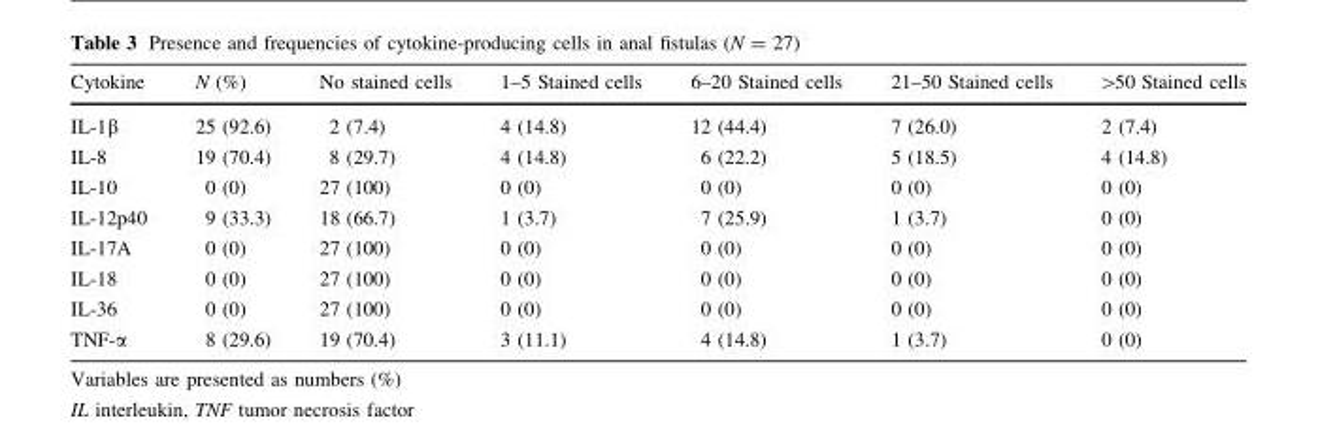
<table><thead><tr><td>Cytokine</td><td>N (%)</td><td>No stained cells</td><td>1–5 Stained cells</td><td>6–20 Stained cells</td><td>21–50 Stained cells</td><td>&gt;50 Stained cells</td></tr></thead><tbody><tr><td>IL-1β</td><td>25 (92.6)</td><td>2 (7.4)</td><td>4 (14.8)</td><td>12 (44.4)</td><td>7 (26.0)</td><td>2 (7.4)</td></tr><tr><td>IL-8</td><td>19 (70.4)</td><td>8 (29.7)</td><td>4 (14.8)</td><td>6 (22.2)</td><td>5 (18.5)</td><td>4 (14.8)</td></tr><tr><td>IL-10</td><td>0 (0)</td><td>27 (100)</td><td>0 (0)</td><td>0 (0)</td><td>0 (0)</td><td>0 (0)</td></tr><tr><td>IL-12p40</td><td>9 (33.3)</td><td>18 (66.7)</td><td>1 (3.7)</td><td>7 (25.9)</td><td>1 (3.7)</td><td>0 (0)</td></tr><tr><td>IL-17A</td><td>0 (0)</td><td>27 (100)</td><td>0 (0)</td><td>0 (0)</td><td>0 (0)</td><td>0 (0)</td></tr><tr><td>IL-18</td><td>0 (0)</td><td>27 (100)</td><td>0 (0)</td><td>0 (0)</td><td>0 (0)</td><td>0 (0)</td></tr><tr><td>IL-36</td><td>0 (0)</td><td>27 (100)</td><td>0 (0)</td><td>0 (0)</td><td>0 (0)</td><td>0 (0)</td></tr><tr><td>TNF-α</td><td>8 (29.6)</td><td>19 (70.4)</td><td>3 (11.1)</td><td>4 (14.8)</td><td>1 (3.7)</td><td>0 (0)</td></tr></tbody></table>